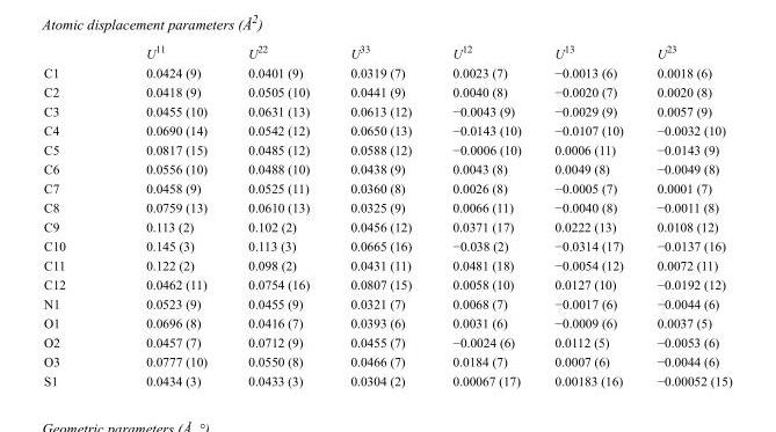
<table><thead><tr><td></td><td>U<sup>11</sup></td><td>U<sup>22</sup></td><td>U<sup>33</sup></td><td>U<sup>12</sup></td><td>U<sup>13</sup></td><td>U<sup>23</sup></td></tr></thead><tbody><tr><td>C1</td><td>0.0424 (9)</td><td>0.0401 (9)</td><td>0.0319 (7)</td><td>0.0023 (7)</td><td>−0.0013 (6)</td><td>0.0018 (6)</td></tr><tr><td>C2</td><td>0.0418 (9)</td><td>0.0505 (10)</td><td>0.0441 (9)</td><td>0.0040 (8)</td><td>−0.0020 (7)</td><td>0.0020 (8)</td></tr><tr><td>C3</td><td>0.0455 (10)</td><td>0.0631 (13)</td><td>0.0613 (12)</td><td>−0.0043 (9)</td><td>−0.0029 (9)</td><td>0.0057 (9)</td></tr><tr><td>C4</td><td>0.0690 (14)</td><td>0.0542 (12)</td><td>0.0650 (13)</td><td>−0.0143 (10)</td><td>−0.0107 (10)</td><td>−0.0032 (10)</td></tr><tr><td>C5</td><td>0.0817 (15)</td><td>0.0485 (12)</td><td>0.0588 (12)</td><td>−0.0006 (10)</td><td>0.0006 (11)</td><td>−0.0143 (9)</td></tr><tr><td>C6</td><td>0.0556 (10)</td><td>0.0488 (10)</td><td>0.0438 (9)</td><td>0.0043 (8)</td><td>0.0049 (8)</td><td>−0.0049 (8)</td></tr><tr><td>C7</td><td>0.0458 (9)</td><td>0.0525 (11)</td><td>0.0360 (8)</td><td>0.0026 (8)</td><td>−0.0005 (7)</td><td>0.0001 (7)</td></tr><tr><td>C8</td><td>0.0759 (13)</td><td>0.0610 (13)</td><td>0.0325 (9)</td><td>0.0066 (11)</td><td>−0.0040 (8)</td><td>−0.0011 (8)</td></tr><tr><td>C9</td><td>0.113 (2)</td><td>0.102 (2)</td><td>0.0456 (12)</td><td>0.0371 (17)</td><td>0.0222 (13)</td><td>0.0108 (12)</td></tr><tr><td>C10</td><td>0.145 (3)</td><td>0.113 (3)</td><td>0.0665 (16)</td><td>−0.038 (2)</td><td>−0.0314 (17)</td><td>−0.0137 (16)</td></tr><tr><td>C11</td><td>0.122 (2)</td><td>0.098 (2)</td><td>0.0431 (11)</td><td>0.0481 (18)</td><td>−0.0054 (12)</td><td>0.0072 (11)</td></tr><tr><td>C12</td><td>0.0462 (11)</td><td>0.0754 (16)</td><td>0.0807 (15)</td><td>0.0058 (10)</td><td>0.0127 (10)</td><td>−0.0192 (12)</td></tr><tr><td>N1</td><td>0.0523 (9)</td><td>0.0455 (9)</td><td>0.0321 (7)</td><td>0.0068 (7)</td><td>−0.0017 (6)</td><td>−0.0044 (6)</td></tr><tr><td>O1</td><td>0.0696 (8)</td><td>0.0416 (7)</td><td>0.0393 (6)</td><td>0.0031 (6)</td><td>−0.0009 (6)</td><td>0.0037 (5)</td></tr><tr><td>O2</td><td>0.0457 (7)</td><td>0.0712 (9)</td><td>0.0455 (7)</td><td>−0.0024 (6)</td><td>0.0112 (5)</td><td>−0.0053 (6)</td></tr><tr><td>O3</td><td>0.0777 (10)</td><td>0.0550 (8)</td><td>0.0466 (7)</td><td>0.0184 (7)</td><td>0.0007 (6)</td><td>−0.0044 (6)</td></tr><tr><td>S1</td><td>0.0434 (3)</td><td>0.0433 (3)</td><td>0.0304 (2)</td><td>0.00067 (17)</td><td>0.00183 (16)</td><td>−0.00052 (15)</td></tr></tbody></table>